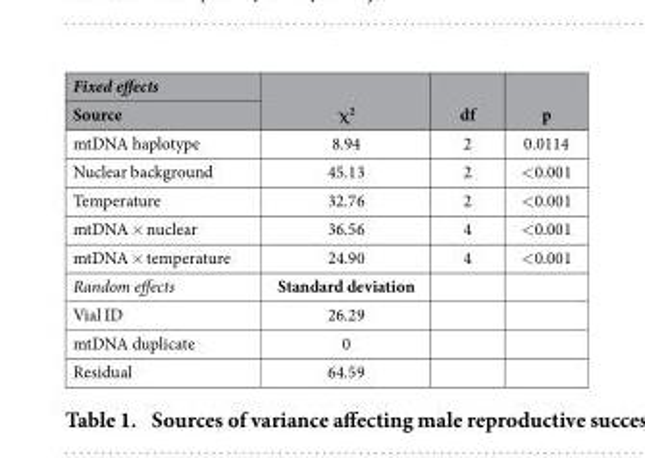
<table><thead><tr><td rowspan="2">Fixed effects Source</td><td rowspan="2">χ<sup>2</sup></td><td rowspan="2">df</td><td rowspan="2">p</td></tr><tr></tr></thead><tbody><tr><td>mtDNA haplotype</td><td>8.94</td><td>2</td><td>0.0114</td></tr><tr><td>Nuclear background</td><td>45.13</td><td>2</td><td>&lt; 0.001</td></tr><tr><td>Temperature</td><td>32.76</td><td>2</td><td>&lt; 0.001</td></tr><tr><td>mtDNA × nuclear</td><td>36.56</td><td>4</td><td>&lt; 0.001</td></tr><tr><td>mtDNA × temperature</td><td>24.90</td><td>4</td><td>&lt; 0.001</td></tr><tr><td>Random effects</td><td>Standard deviation</td><td></td><td></td></tr><tr><td>Vial ID</td><td>26.29</td><td></td><td></td></tr><tr><td>mtDNA duplicate</td><td>0</td><td></td><td></td></tr><tr><td>Residual</td><td>64.59</td><td></td><td></td></tr></tbody></table>